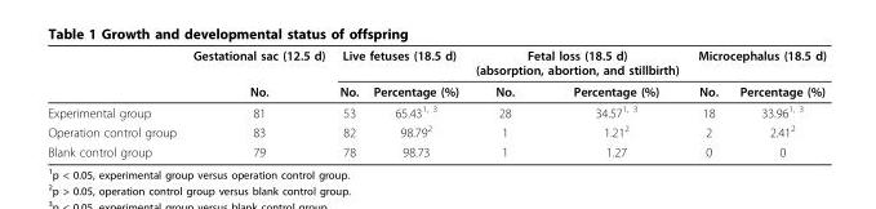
<table><thead><tr><td rowspan="2"></td><td rowspan="2">Gestational sac (12.5 d) No.</td><td colspan="2">Live fetuses (18.5 d)</td><td colspan="2">Fetal loss (18.5 d) (absorption, abortion, and stillbirth)</td><td colspan="2">Microcephalus (18.5 d)</td></tr><tr><td>No.</td><td>Percentage (%)</td><td>No.</td><td>Percentage (%)</td><td>No.</td><td>Percentage (%)</td></tr></thead><tbody><tr><td>Experimental group</td><td>81</td><td>53</td><td>65.43<sup>1, 3</sup></td><td>28</td><td>34.57<sup>1, 3</sup></td><td>18</td><td>33.96<sup>1, 3</sup></td></tr><tr><td>Operation control group</td><td>83</td><td>82</td><td>98.79<sup>2</sup></td><td>1</td><td>1.21<sup>2</sup></td><td>2</td><td>2.41<sup>2</sup></td></tr><tr><td>Blank control group</td><td>79</td><td>78</td><td>98.73</td><td>1</td><td>1.27</td><td>0</td><td>0</td></tr></tbody></table>